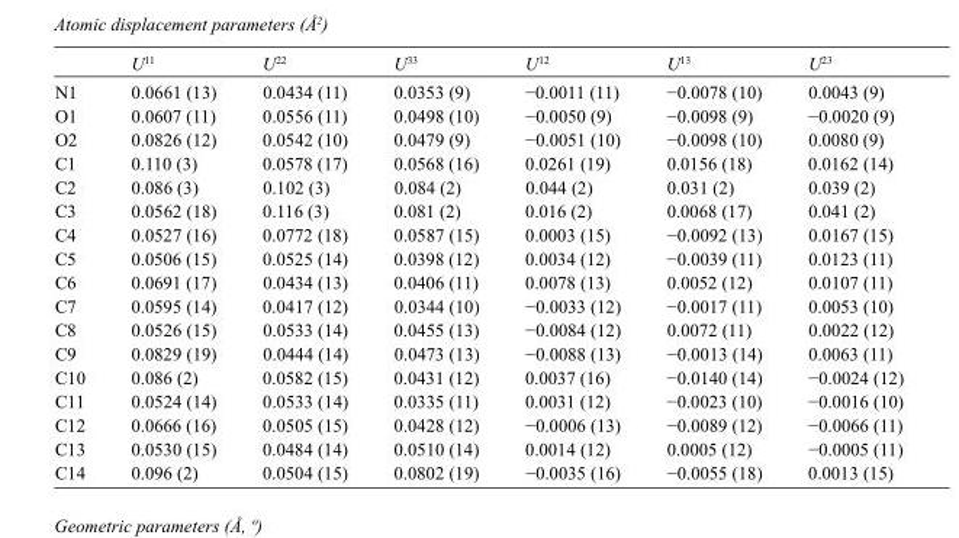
<table><thead><tr><td></td><td>U<sup>11</sup></td><td>U<sup>22</sup></td><td>U<sup>33</sup></td><td>U<sup>12</sup></td><td>U<sup>13</sup></td><td>U<sup>23</sup></td></tr></thead><tbody><tr><td>N1</td><td>0.0661 (13)</td><td>0.0434 (11)</td><td>0.0353 (9)</td><td>−0.0011 (11)</td><td>−0.0078 (10)</td><td>0.0043 (9)</td></tr><tr><td>O1</td><td>0.0607 (11)</td><td>0.0556 (11)</td><td>0.0498 (10)</td><td>−0.0050 (9)</td><td>−0.0098 (9)</td><td>−0.0020 (9)</td></tr><tr><td>O2</td><td>0.0826 (12)</td><td>0.0542 (10)</td><td>0.0479 (9)</td><td>−0.0051 (10)</td><td>−0.0098 (10)</td><td>0.0080 (9)</td></tr><tr><td>C1</td><td>0.110 (3)</td><td>0.0578 (17)</td><td>0.0568 (16)</td><td>0.0261 (19)</td><td>0.0156 (18)</td><td>0.0162 (14)</td></tr><tr><td>C2</td><td>0.086 (3)</td><td>0.102 (3)</td><td>0.084 (2)</td><td>0.044 (2)</td><td>0.031 (2)</td><td>0.039 (2)</td></tr><tr><td>C3</td><td>0.0562 (18)</td><td>0.116 (3)</td><td>0.081 (2)</td><td>0.016 (2)</td><td>0.0068 (17)</td><td>0.041 (2)</td></tr><tr><td>C4</td><td>0.0527 (16)</td><td>0.0772 (18)</td><td>0.0587 (15)</td><td>0.0003 (15)</td><td>−0.0092 (13)</td><td>0.0167 (15)</td></tr><tr><td>C5</td><td>0.0506 (15)</td><td>0.0525 (14)</td><td>0.0398 (12)</td><td>0.0034 (12)</td><td>−0.0039 (11)</td><td>0.0123 (11)</td></tr><tr><td>C6</td><td>0.0691 (17)</td><td>0.0434 (13)</td><td>0.0406 (11)</td><td>0.0078 (13)</td><td>0.0052 (12)</td><td>0.0107 (11)</td></tr><tr><td>C7</td><td>0.0595 (14)</td><td>0.0417 (12)</td><td>0.0344 (10)</td><td>−0.0033 (12)</td><td>−0.0017 (11)</td><td>0.0053 (10)</td></tr><tr><td>C8</td><td>0.0526 (15)</td><td>0.0533 (14)</td><td>0.0455 (13)</td><td>−0.0084 (12)</td><td>0.0072 (11)</td><td>0.0022 (12)</td></tr><tr><td>C9</td><td>0.0829 (19)</td><td>0.0444 (14)</td><td>0.0473 (13)</td><td>−0.0088 (13)</td><td>−0.0013 (14)</td><td>0.0063 (11)</td></tr><tr><td>C10</td><td>0.086 (2)</td><td>0.0582 (15)</td><td>0.0431 (12)</td><td>0.0037 (16)</td><td>−0.0140 (14)</td><td>−0.0024 (12)</td></tr><tr><td>C11</td><td>0.0524 (14)</td><td>0.0533 (14)</td><td>0.0335 (11)</td><td>0.0031 (12)</td><td>−0.0023 (10)</td><td>−0.0016 (10)</td></tr><tr><td>C12</td><td>0.0666 (16)</td><td>0.0505 (15)</td><td>0.0428 (12)</td><td>−0.0006 (13)</td><td>−0.0089 (12)</td><td>−0.0066 (11)</td></tr><tr><td>C13</td><td>0.0530 (15)</td><td>0.0484 (14)</td><td>0.0510 (14)</td><td>0.0014 (12)</td><td>0.0005 (12)</td><td>−0.0005 (11)</td></tr><tr><td>C14</td><td>0.096 (2)</td><td>0.0504 (15)</td><td>0.0802 (19)</td><td>−0.0035 (16)</td><td>−0.0055 (18)</td><td>0.0013 (15)</td></tr></tbody></table>